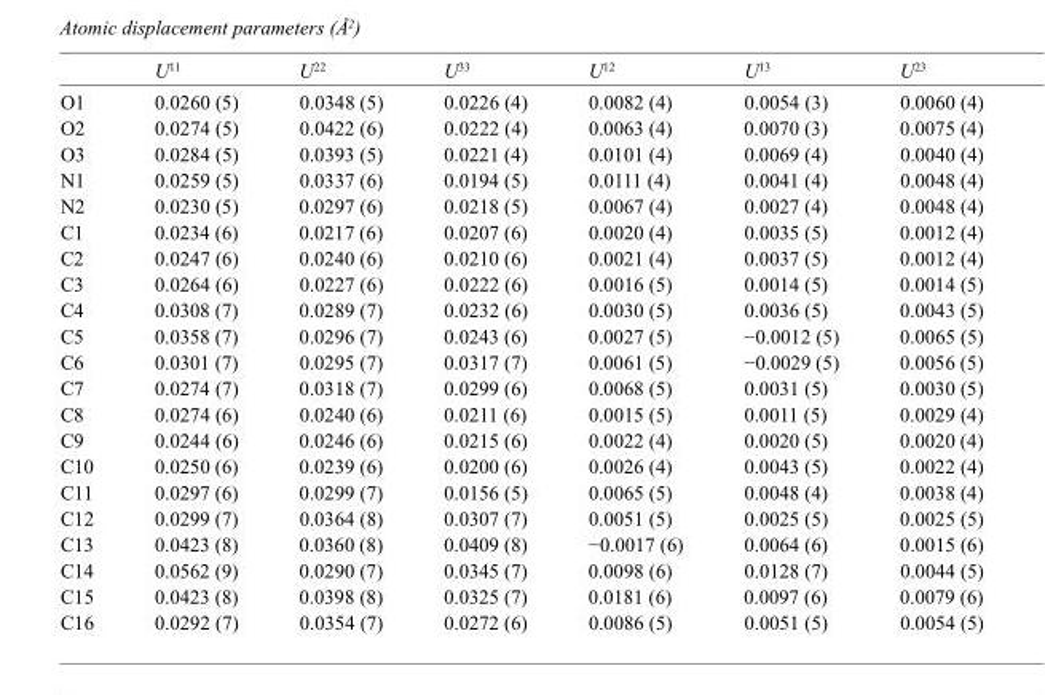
<table><thead><tr><td></td><td>U<sup>11</sup></td><td>U<sup>22</sup></td><td>U<sup>33</sup></td><td>U<sup>12</sup></td><td>U<sup>13</sup></td><td>U<sup>23</sup></td></tr></thead><tbody><tr><td>O1</td><td>0.0260 (5)</td><td>0.0348 (5)</td><td>0.0226 (4)</td><td>0.0082 (4)</td><td>0.0054 (3)</td><td>0.0060 (4)</td></tr><tr><td>O2</td><td>0.0274 (5)</td><td>0.0422 (6)</td><td>0.0222 (4)</td><td>0.0063 (4)</td><td>0.0070 (3)</td><td>0.0075 (4)</td></tr><tr><td>O3</td><td>0.0284 (5)</td><td>0.0393 (5)</td><td>0.0221 (4)</td><td>0.0101 (4)</td><td>0.0069 (4)</td><td>0.0040 (4)</td></tr><tr><td>N1</td><td>0.0259 (5)</td><td>0.0337 (6)</td><td>0.0194 (5)</td><td>0.0111 (4)</td><td>0.0041 (4)</td><td>0.0048 (4)</td></tr><tr><td>N2</td><td>0.0230 (5)</td><td>0.0297 (6)</td><td>0.0218 (5)</td><td>0.0067 (4)</td><td>0.0027 (4)</td><td>0.0048 (4)</td></tr><tr><td>C1</td><td>0.0234 (6)</td><td>0.0217 (6)</td><td>0.0207 (6)</td><td>0.0020 (4)</td><td>0.0035 (5)</td><td>0.0012 (4)</td></tr><tr><td>C2</td><td>0.0247 (6)</td><td>0.0240 (6)</td><td>0.0210 (6)</td><td>0.0021 (4)</td><td>0.0037 (5)</td><td>0.0012 (4)</td></tr><tr><td>C3</td><td>0.0264 (6)</td><td>0.0227 (6)</td><td>0.0222 (6)</td><td>0.0016 (5)</td><td>0.0014 (5)</td><td>0.0014 (5)</td></tr><tr><td>C4</td><td>0.0308 (7)</td><td>0.0289 (7)</td><td>0.0232 (6)</td><td>0.0030 (5)</td><td>0.0036 (5)</td><td>0.0043 (5)</td></tr><tr><td>C5</td><td>0.0358 (7)</td><td>0.0296 (7)</td><td>0.0243 (6)</td><td>0.0027 (5)</td><td>−0.0012 (5)</td><td>0.0065 (5)</td></tr><tr><td>C6</td><td>0.0301 (7)</td><td>0.0295 (7)</td><td>0.0317 (7)</td><td>0.0061 (5)</td><td>−0.0029 (5)</td><td>0.0056 (5)</td></tr><tr><td>C7</td><td>0.0274 (7)</td><td>0.0318 (7)</td><td>0.0299 (6)</td><td>0.0068 (5)</td><td>0.0031 (5)</td><td>0.0030 (5)</td></tr><tr><td>C8</td><td>0.0274 (6)</td><td>0.0240 (6)</td><td>0.0211 (6)</td><td>0.0015 (5)</td><td>0.0011 (5)</td><td>0.0029 (4)</td></tr><tr><td>C9</td><td>0.0244 (6)</td><td>0.0246 (6)</td><td>0.0215 (6)</td><td>0.0022 (4)</td><td>0.0020 (5)</td><td>0.0020 (4)</td></tr><tr><td>C10</td><td>0.0250 (6)</td><td>0.0239 (6)</td><td>0.0200 (6)</td><td>0.0026 (4)</td><td>0.0043 (5)</td><td>0.0022 (4)</td></tr><tr><td>C11</td><td>0.0297 (6)</td><td>0.0299 (7)</td><td>0.0156 (5)</td><td>0.0065 (5)</td><td>0.0048 (4)</td><td>0.0038 (4)</td></tr><tr><td>C12</td><td>0.0299 (7)</td><td>0.0364 (8)</td><td>0.0307 (7)</td><td>0.0051 (5)</td><td>0.0025 (5)</td><td>0.0025 (5)</td></tr><tr><td>C13</td><td>0.0423 (8)</td><td>0.0360 (8)</td><td>0.0409 (8)</td><td>−0.0017 (6)</td><td>0.0064 (6)</td><td>0.0015 (6)</td></tr><tr><td>C14</td><td>0.0562 (9)</td><td>0.0290 (7)</td><td>0.0345 (7)</td><td>0.0098 (6)</td><td>0.0128 (7)</td><td>0.0044 (5)</td></tr><tr><td>C15</td><td>0.0423 (8)</td><td>0.0398 (8)</td><td>0.0325 (7)</td><td>0.0181 (6)</td><td>0.0097 (6)</td><td>0.0079 (6)</td></tr><tr><td>C16</td><td>0.0292 (7)</td><td>0.0354 (7)</td><td>0.0272 (6)</td><td>0.0086 (5)</td><td>0.0051 (5)</td><td>0.0054 (5)</td></tr></tbody></table>